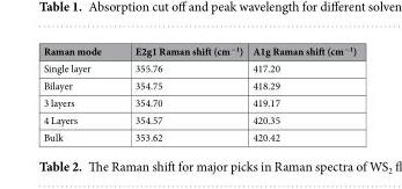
<table><thead><tr><td>Raman mode</td><td>E2g1 Raman shift (cm<sup>−1</sup>)</td><td>A1g Raman shift (cm<sup>−1</sup>)</td></tr></thead><tbody><tr><td>Single layer</td><td>355.76</td><td>417.20</td></tr><tr><td>Bilayer</td><td>354.75</td><td>418.29</td></tr><tr><td>3 layers</td><td>354.70</td><td>419.17</td></tr><tr><td>4 Layers</td><td>354.57</td><td>420.35</td></tr><tr><td>Bulk</td><td>353.62</td><td>420.42</td></tr></tbody></table>